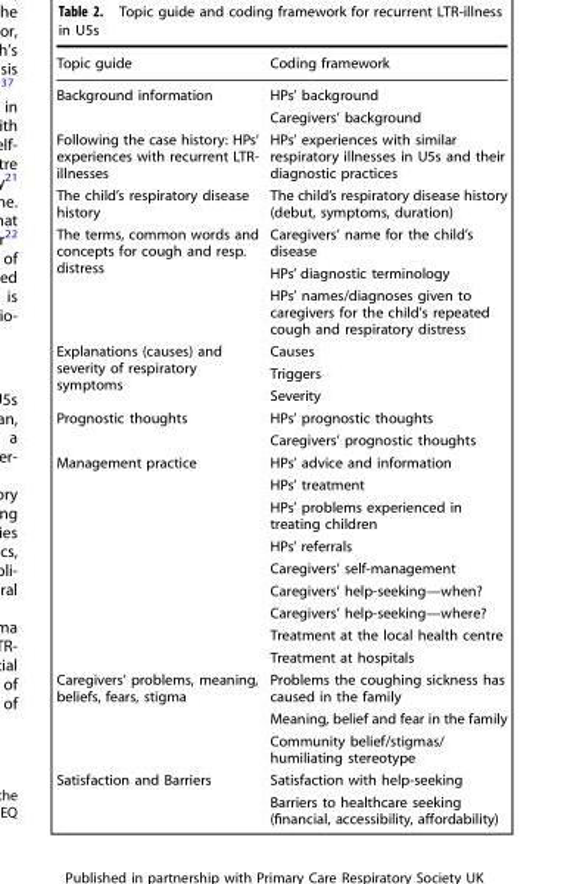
<table><thead><tr><td>Topic guide</td><td>Coding framework</td></tr></thead><tbody><tr><td rowspan="2">Background information</td><td>HPs’ background</td></tr><tr><td>Caregivers’ background</td></tr><tr><td>Following the case history: HPs’ experiences with recurrent LTR- illnesses</td><td>HPs’ experiences with similar respiratory illnesses in U5s and their diagnostic practices</td></tr><tr><td>The child’s respiratory disease history</td><td>The child’s respiratory disease history (debut, symptoms, duration)</td></tr><tr><td rowspan="3">The terms, common words and concepts for cough and resp. distress</td><td>Caregivers’ name for the child’s disease</td></tr><tr><td>HPs’ diagnostic terminology</td></tr><tr><td>HPs’ names/diagnoses given to caregivers for the child&#x27;s repeated cough and respiratory distress</td></tr><tr><td rowspan="3">Explanations (causes) and severity of respiratory symptoms</td><td>Causes</td></tr><tr><td>Triggers</td></tr><tr><td>Severity</td></tr><tr><td rowspan="2">Prognostic thoughts</td><td>HPs’ prognostic thoughts</td></tr><tr><td>Caregivers’ prognostic thoughts</td></tr><tr><td rowspan="9">Management practice</td><td>HPs’ advice and information</td></tr><tr><td>HPs’ treatment</td></tr><tr><td>HPs’ problems experienced in treating children</td></tr><tr><td>HPs’ referrals</td></tr><tr><td>Caregivers’ self-management</td></tr><tr><td>Caregivers’ help-seeking—when?</td></tr><tr><td>Caregivers’ help-seeking—where?</td></tr><tr><td>Treatment at the local health centre</td></tr><tr><td>Treatment at hospitals</td></tr><tr><td rowspan="3">Caregivers’ problems, meaning, beliefs, fears, stigma</td><td>Problems the coughing sickness has caused in the family</td></tr><tr><td>Meaning, belief and fear in the family</td></tr><tr><td>Community belief/stigmas/ humiliating stereotype</td></tr><tr><td rowspan="2">Satisfaction and Barriers</td><td>Satisfaction with help-seeking</td></tr><tr><td>Barriers to healthcare seeking (financial, accessibility, affordability)</td></tr></tbody></table>